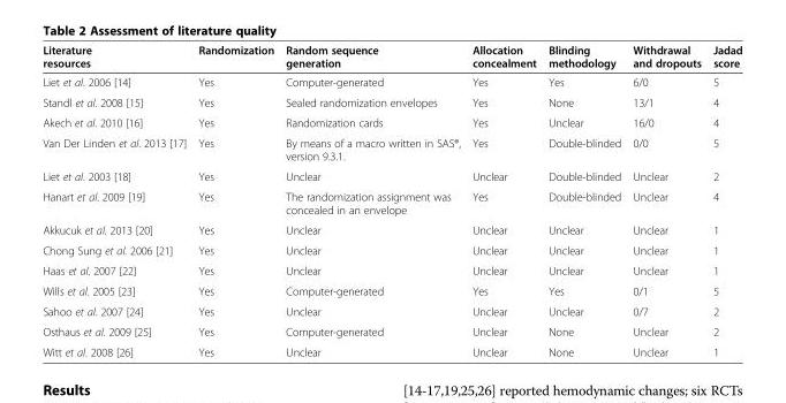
<table><thead><tr><td>Literature resources</td><td>Randomization</td><td>Random sequence generation</td><td>Allocation concealment</td><td>Blinding methodology</td><td>Withdrawal and dropouts</td><td>Jadad score</td></tr></thead><tbody><tr><td>Liet et al. 2006 [14]</td><td>Yes</td><td>Computer-generated</td><td>Yes</td><td>Yes</td><td>6/0</td><td>5</td></tr><tr><td>Standl et al. 2008 [15]</td><td>Yes</td><td>Sealed randomization envelopes</td><td>Yes</td><td>None</td><td>13/1</td><td>4</td></tr><tr><td>Akech et al. 2010 [16]</td><td>Yes</td><td>Randomization cards</td><td>Yes</td><td>Unclear</td><td>16/0</td><td>4</td></tr><tr><td>Van Der Linden et al. 2013 [17]</td><td>Yes</td><td>By means of a macro written in SAS®, version 9.3.1.</td><td>Yes</td><td>Double-blinded</td><td>0/0</td><td>5</td></tr><tr><td>Liet et al. 2003 [18]</td><td>Yes</td><td>Unclear</td><td>Unclear</td><td>Double-blinded</td><td>Unclear</td><td>2</td></tr><tr><td>Hanart et al. 2009 [19]</td><td>Yes</td><td>The randomization assignment was concealed in an envelope</td><td>Yes</td><td>Double-blinded</td><td>Unclear</td><td>4</td></tr><tr><td>Akkucuk et al. 2013 [20]</td><td>Yes</td><td>Unclear</td><td>Unclear</td><td>Unclear</td><td>Unclear</td><td>1</td></tr><tr><td>Chong Sung et al. 2006 [21]</td><td>Yes</td><td>Unclear</td><td>Unclear</td><td>Unclear</td><td>Unclear</td><td>1</td></tr><tr><td>Haas et al. 2007 [22]</td><td>Yes</td><td>Unclear</td><td>Unclear</td><td>Unclear</td><td>Unclear</td><td>1</td></tr><tr><td>Wills et al. 2005 [23]</td><td>Yes</td><td>Computer-generated</td><td>Yes</td><td>Yes</td><td>0/1</td><td>5</td></tr><tr><td>Sahoo et al. 2007 [24]</td><td>Yes</td><td>Unclear</td><td>Unclear</td><td>Unclear</td><td>0/7</td><td>2</td></tr><tr><td>Osthaus et al. 2009 [25]</td><td>Yes</td><td>Computer-generated</td><td>Unclear</td><td>None</td><td>Unclear</td><td>2</td></tr><tr><td>Witt et al. 2008 [26]</td><td>Yes</td><td>Unclear</td><td>Unclear</td><td>None</td><td>Unclear</td><td>1</td></tr></tbody></table>